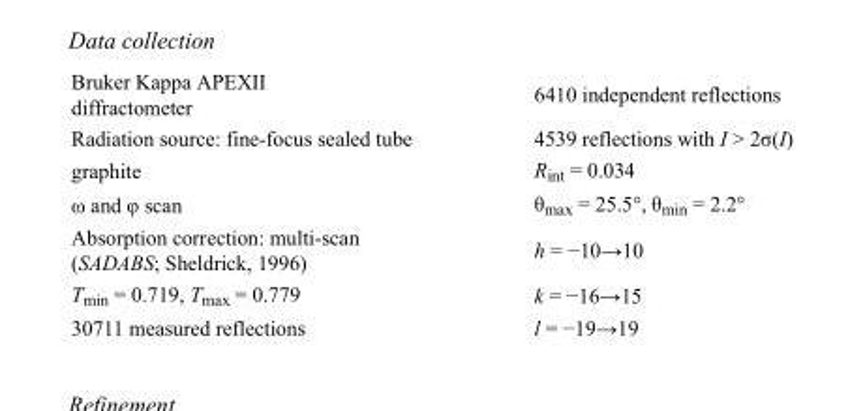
<table><tbody><tr><td>Bruker Kappa APEXII diffractometer</td><td>6410 independent reflections</td></tr><tr><td>Radiation source: fine-focus sealed tube</td><td>4539 reflections with I &gt; 2σ(I)</td></tr><tr><td>graphite</td><td>R<sub>int</sub> = 0.034</td></tr><tr><td>ω and φ scan</td><td>θ<sub>max</sub> = 25.5°, θ<sub>min</sub> = 2.2°</td></tr><tr><td>Absorption correction: multi-scan (SADABS; Sheldrick, 1996)</td><td>h = −10→10</td></tr><tr><td>T<sub>min</sub> = 0.719, T<sub>max</sub> = 0.779</td><td>k = −16→15</td></tr><tr><td>30711 measured reflections</td><td>l = −19→19</td></tr></tbody></table>